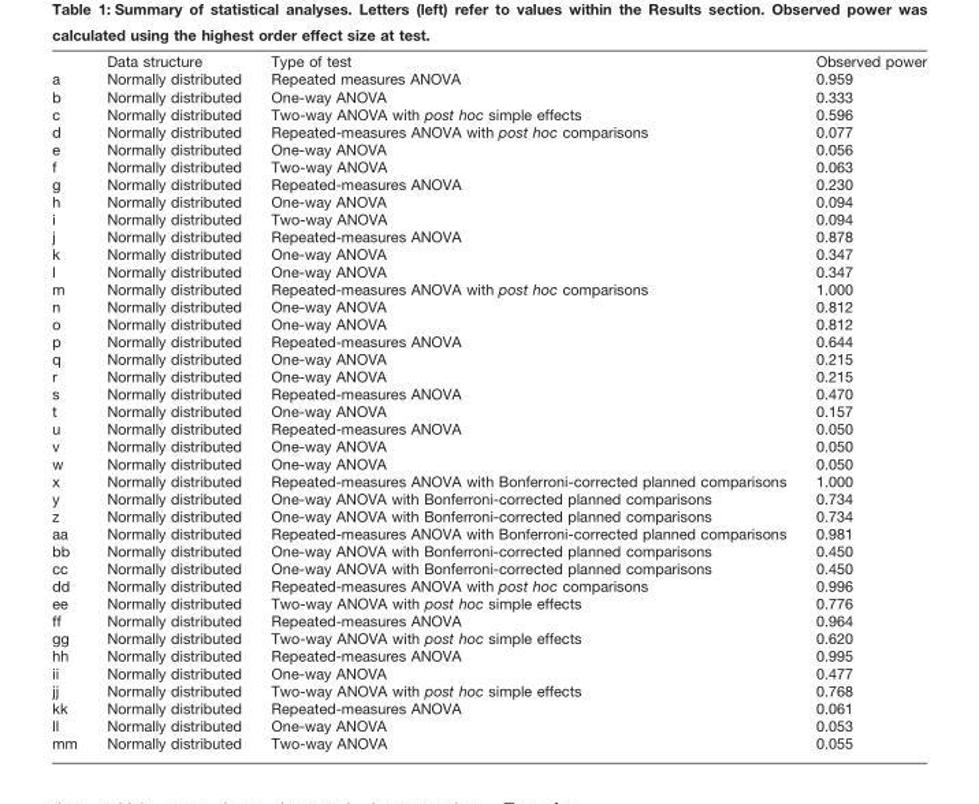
<table><thead><tr><td></td><td>Data structure</td><td>Type of test</td><td>Observed power</td></tr></thead><tbody><tr><td>a</td><td>Normally distributed</td><td>Repeated measures ANOVA</td><td>0.959</td></tr><tr><td>b</td><td>Normally distributed</td><td>One-way ANOVA</td><td>0.333</td></tr><tr><td>c</td><td>Normally distributed</td><td>Two-way ANOVA with post hoc simple effects</td><td>0.596</td></tr><tr><td>d</td><td>Normally distributed</td><td>Repeated-measures ANOVA with post hoc comparisons</td><td>0.077</td></tr><tr><td>e</td><td>Normally distributed</td><td>One-way ANOVA</td><td>0.056</td></tr><tr><td>f</td><td>Normally distributed</td><td>Two-way ANOVA</td><td>0.063</td></tr><tr><td>g</td><td>Normally distributed</td><td>Repeated-measures ANOVA</td><td>0.230</td></tr><tr><td>h</td><td>Normally distributed</td><td>One-way ANOVA</td><td>0.094</td></tr><tr><td>i</td><td>Normally distributed</td><td>Two-way ANOVA</td><td>0.094</td></tr><tr><td>j</td><td>Normally distributed</td><td>Repeated-measures ANOVA</td><td>0.878</td></tr><tr><td>k</td><td>Normally distributed</td><td>One-way ANOVA</td><td>0.347</td></tr><tr><td>l</td><td>Normally distributed</td><td>One-way ANOVA</td><td>0.347</td></tr><tr><td>m</td><td>Normally distributed</td><td>Repeated-measures ANOVA with post hoc comparisons</td><td>1.000</td></tr><tr><td>n</td><td>Normally distributed</td><td>One-way ANOVA</td><td>0.812</td></tr><tr><td>o</td><td>Normally distributed</td><td>One-way ANOVA</td><td>0.812</td></tr><tr><td>p</td><td>Normally distributed</td><td>Repeated-measures ANOVA</td><td>0.644</td></tr><tr><td>q</td><td>Normally distributed</td><td>One-way ANOVA</td><td>0.215</td></tr><tr><td>r</td><td>Normally distributed</td><td>One-way ANOVA</td><td>0.215</td></tr><tr><td>s</td><td>Normally distributed</td><td>Repeated-measures ANOVA</td><td>0.470</td></tr><tr><td>t</td><td>Normally distributed</td><td>One-way ANOVA</td><td>0.157</td></tr><tr><td>u</td><td>Normally distributed</td><td>Repeated-measures ANOVA</td><td>0.050</td></tr><tr><td>v</td><td>Normally distributed</td><td>One-way ANOVA</td><td>0.050</td></tr><tr><td>w</td><td>Normally distributed</td><td>One-way ANOVA</td><td>0.050</td></tr><tr><td>x</td><td>Normally distributed</td><td>Repeated-measures ANOVA with Bonferroni-corrected planned comparisons</td><td>1.000</td></tr><tr><td>y</td><td>Normally distributed</td><td>One-way ANOVA with Bonferroni-corrected planned comparisons</td><td>0.734</td></tr><tr><td>z</td><td>Normally distributed</td><td>One-way ANOVA with Bonferroni-corrected planned comparisons</td><td>0.734</td></tr><tr><td>aa</td><td>Normally distributed</td><td>Repeated-measures ANOVA with Bonferroni-corrected planned comparisons</td><td>0.981</td></tr><tr><td>bb</td><td>Normally distributed</td><td>One-way ANOVA with Bonferroni-corrected planned comparisons</td><td>0.450</td></tr><tr><td>cc</td><td>Normally distributed</td><td>One-way ANOVA with Bonferroni-corrected planned comparisons</td><td>0.450</td></tr><tr><td>dd</td><td>Normally distributed</td><td>Repeated-measures ANOVA with post hoc comparisons</td><td>0.996</td></tr><tr><td>ee</td><td>Normally distributed</td><td>Two-way ANOVA with post hoc simple effects</td><td>0.776</td></tr><tr><td>ff</td><td>Normally distributed</td><td>Repeated-measures ANOVA</td><td>0.964</td></tr><tr><td>gg</td><td>Normally distributed</td><td>Two-way ANOVA with post hoc simple effects</td><td>0.620</td></tr><tr><td>hh</td><td>Normally distributed</td><td>Repeated-measures ANOVA</td><td>0.995</td></tr><tr><td>ii</td><td>Normally distributed</td><td>One-way ANOVA</td><td>0.477</td></tr><tr><td>jj</td><td>Normally distributed</td><td>Two-way ANOVA with post hoc simple effects</td><td>0.768</td></tr><tr><td>kk</td><td>Normally distributed</td><td>Repeated-measures ANOVA</td><td>0.061</td></tr><tr><td>ll</td><td>Normally distributed</td><td>One-way ANOVA</td><td>0.053</td></tr><tr><td>mm</td><td>Normally distributed</td><td>Two-way ANOVA</td><td>0.055</td></tr></tbody></table>